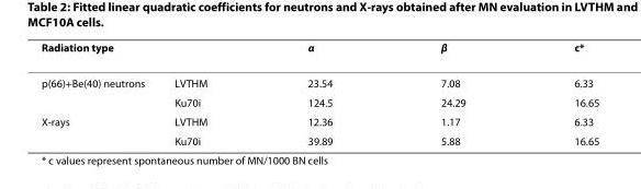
<table><thead><tr><td>Radiation type</td><td></td><td>α</td><td>β</td><td>c*</td></tr></thead><tbody><tr><td rowspan="2">p(66)+Be(40) neutrons</td><td>LVTHM</td><td>23.54</td><td>7.08</td><td>6.33</td></tr><tr><td>Ku70i</td><td>124.5</td><td>24.29</td><td>16.65</td></tr><tr><td rowspan="2">X-rays</td><td>LVTHM</td><td>12.36</td><td>1.17</td><td>6.33</td></tr><tr><td>Ku70i</td><td>39.89</td><td>5.88</td><td>16.65</td></tr></tbody></table>